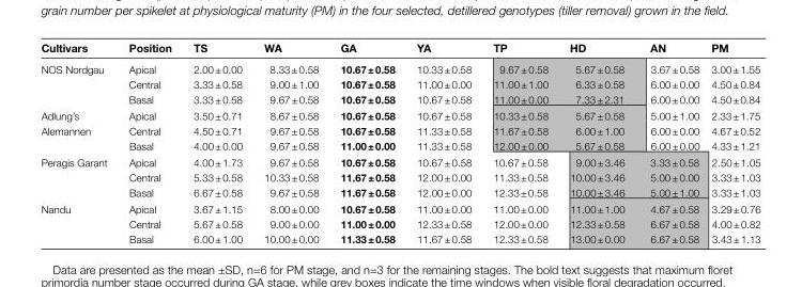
<table><thead><tr><td>Cultivars</td><td>Position</td><td>TS</td><td>WA</td><td>GA</td><td>YA</td><td>TP</td><td>HD</td><td>AN</td><td>PM</td></tr></thead><tbody><tr><td rowspan="3">NOS Nordgau</td><td>Apical</td><td>2.00 ± 0.00</td><td>8.33 ± 0.58</td><td>10.67 ± 0.58</td><td>10.33 ± 0.58</td><td>9.67 ± 0.58</td><td>5.67 ± 0.58</td><td>3.67 ± 0.58</td><td>3.00 ± 1.55</td></tr><tr><td>Central</td><td>3.33 ± 0.58</td><td>9.00 ± 1.00</td><td>10.67 ± 0.58</td><td>11.00 ± 0.00</td><td>11.00 ± 1.00</td><td>6.33 ± 0.58</td><td>6.00 ± 0.00</td><td>4.50 ± 0.84</td></tr><tr><td>Basal</td><td>3.33 ± 0.58</td><td>9.67 ± 0.58</td><td>10.67 ± 0.58</td><td>10.67 ± 0.58</td><td>11.00 ± 0.00</td><td>7.33 ± 2.31</td><td>6.00 ± 0.00</td><td>4.50 ± 0.84</td></tr><tr><td rowspan="3">Adlung’s Alemannen</td><td>Apical</td><td>3.50 ± 0.71</td><td>8.67 ± 0.58</td><td>10.67 ± 0.58</td><td>10.67 ± 0.58</td><td>10.33 ± 0.58</td><td>5.67 ± 0.58</td><td>5.00 ± 1.00</td><td>2.33 ± 1.75</td></tr><tr><td>Central</td><td>4.50 ± 0.71</td><td>9.67 ± 0.58</td><td>10.67 ± 0.58</td><td>11.33 ± 0.58</td><td>11.67 ± 0.58</td><td>6.00 ± 1.00</td><td>6.00 ± 0.00</td><td>4.67 ± 0.52</td></tr><tr><td>Basal</td><td>4.00 ± 0.00</td><td>9.67 ± 0.58</td><td>11.00 ± 0.00</td><td>11.33 ± 0.58</td><td>12.00 ± 0.00</td><td>5.67 ± 0.58</td><td>6.00 ± 0.00</td><td>4.33 ± 1.21</td></tr><tr><td rowspan="3">Peragis Garant</td><td>Apical</td><td>4.00 ± 1.73</td><td>9.67 ± 0.58</td><td>10.67 ± 0.58</td><td>10.67 ± 0.58</td><td>10.67 ± 0.58</td><td>9.00 ± 3.46</td><td>3.33 ± 0.58</td><td>2.50 ± 1.05</td></tr><tr><td>Central</td><td>5.33 ± 0.58</td><td>10.33 ± 0.58</td><td>11.67 ± 0.58</td><td>12.00 ± 0.00</td><td>11.33 ± 0.58</td><td>10.00 ± 3.46</td><td>5.00 ± 0.00</td><td>3.33 ± 1.03</td></tr><tr><td>Basal</td><td>6.67 ± 0.58</td><td>9.67 ± 0.58</td><td>11.67 ± 0.58</td><td>12.00 ± 0.00</td><td>12.33 ± 0.58</td><td>10.00 ± 3.46</td><td>5.00 ± 1.00</td><td>3.33 ± 1.03</td></tr><tr><td rowspan="3">Nandu</td><td>Apical</td><td>3.67 ± 1.15</td><td>8.00 ± 0.00</td><td>10.67 ± 0.58</td><td>11.00 ± 0.00</td><td>11.00 ± 0.00</td><td>11.00 ± 1.00</td><td>4.67 ± 0.58</td><td>3.29 ± 0.76</td></tr><tr><td>Central</td><td>5.67 ± 0.58</td><td>9.00 ± 0.00</td><td>11.00 ± 0.00</td><td>12.33 ± 0.58</td><td>12.00 ± 0.00</td><td>12.33 ± 0.58</td><td>6.67 ± 0.58</td><td>4.00 ± 0.82</td></tr><tr><td>Basal</td><td>6.00 ± 1.00</td><td>10.00 ± 0.00</td><td>11.33 ± 0.58</td><td>11.67 ± 0.58</td><td>12.33 ± 0.58</td><td>13.00 ± 0.00</td><td>6.67 ± 0.58</td><td>3.43 ± 1.13</td></tr></tbody></table>